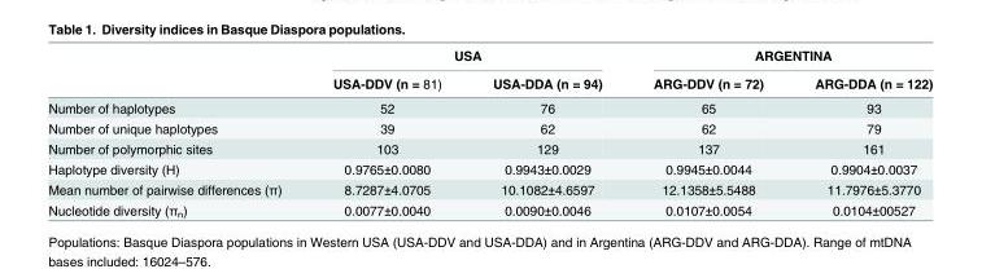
<table><thead><tr><td rowspan="2"></td><td colspan="2">USA</td><td colspan="2">ARGENTINA</td></tr><tr><td>USA-DDV (n = 81)</td><td>USA-DDA (n = 94)</td><td>ARG-DDV (n = 72)</td><td>ARG-DDA (n = 122)</td></tr></thead><tbody><tr><td>Number of haplotypes</td><td>52</td><td>76</td><td>65</td><td>93</td></tr><tr><td>Number of unique haplotypes</td><td>39</td><td>62</td><td>62</td><td>79</td></tr><tr><td>Number of polymorphic sites</td><td>103</td><td>129</td><td>137</td><td>161</td></tr><tr><td>Haplotype diversity (H)</td><td>0.9765±0.0080</td><td>0.9943±0.0029</td><td>0.9945±0.0044</td><td>0.9904±0.0037</td></tr><tr><td>Mean number of pairwise differences (π)</td><td>8.7287±4.0705</td><td>10.1082±4.6597</td><td>12.1358±5.5488</td><td>11.7976±5.3770</td></tr><tr><td>Nucleotide diversity (π<sub>n</sub>)</td><td>0.0077±0.0040</td><td>0.0090±0.0046</td><td>0.0107±0.0054</td><td>0.0104±00527</td></tr></tbody></table>